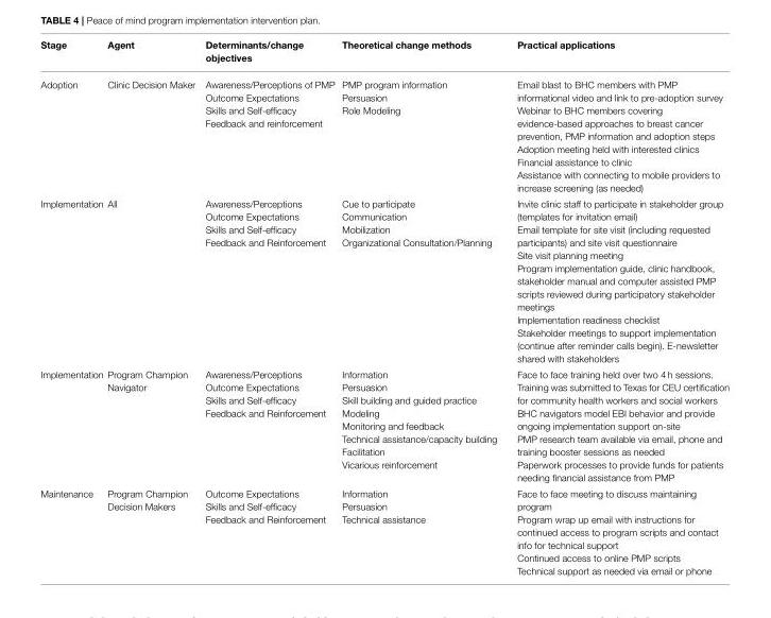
<table><thead><tr><td>Stage</td><td>Agent</td><td>Determinants/change objectives</td><td>Theoretical change methods</td><td>Practical applications</td></tr></thead><tbody><tr><td>Adoption</td><td>Clinic Decision Maker</td><td>Awareness/Perceptions of PMP Outcome Expectations Skills and Self-efficacy Feedback and reinforcement</td><td>PMP program information Persuasion Role Modeling</td><td>Email blast to BHC members with PMP informational video and link to pre-adoption survey Webinar to BHC members covering evidence-based approaches to breast cancer prevention, PMP information and adoption steps Adoption meeting held with interested clinics Financial assistance to clinic Assistance with connecting to mobile providers to increase screening (as needed)</td></tr><tr><td>Implementation</td><td>All</td><td>Awareness/Perceptions Outcome Expectations Skills and Self-efficacy Feedback and Reinforcement</td><td>Cue to participate Communication Mobilization Organizational Consultation/Planning</td><td>Invite clinic staff to participate in stakeholder group (templates for invitation email) Email template for site visit (including requested participants) and site visit questionnaire Site visit planning meeting Program implementation guide, clinic handbook, stakeholder manual and computer assisted PMP scripts reviewed during participatory stakeholder meetings Implementation readiness checklist Stakeholder meetings to support implementation (continue after reminder calls begin). E-newsletter shared with stakeholders</td></tr><tr><td>Implementation</td><td>Program Champion Navigator</td><td>Awareness/Perceptions Outcome Expectations Skills and Self-efficacy Feedback and Reinforcement</td><td>Information Persuasion Skill building and guided practice Modeling Monitoring and feedback Technical assistance/capacity building Facilitation Vicarious reinforcement</td><td>Face to face training held over two 4 h sessions. Training was submitted to Texas for CEU certification for community health workers and social workers BHC navigators model EBI behavior and provide ongoing implementation support on-site PMP research team available via email, phone and training booster sessions as needed Paperwork processes to provide funds for patients needing financial assistance from PMP</td></tr><tr><td>Maintenance</td><td>Program Champion Decision Makers</td><td>Outcome Expectations Skills and Self-efficacy Feedback and Reinforcement</td><td>Information Persuasion Technical assistance</td><td>Face to face meeting to discuss maintaining program Program wrap up email with instructions for continued access to program scripts and contact info for technical support Continued access to online PMP scripts Technical support as needed via email or phone</td></tr></tbody></table>